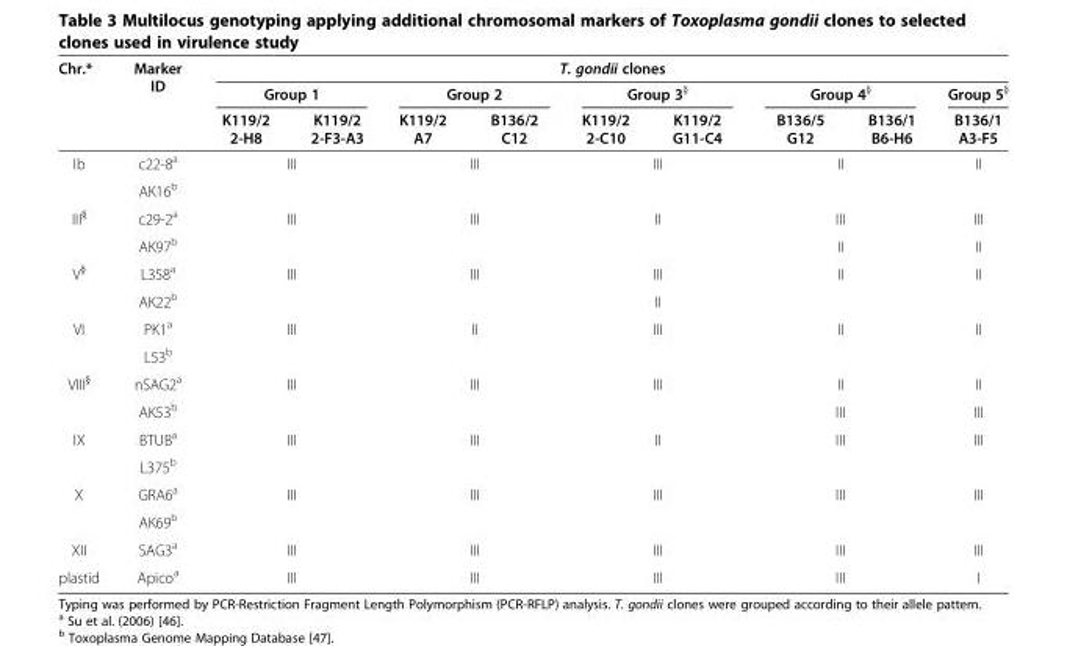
<table><thead><tr><td rowspan="3">Chr.*</td><td rowspan="3">Marker ID</td><td colspan="9">T. gondii clones</td></tr><tr><td colspan="2">Group 1</td><td colspan="2">Group 2</td><td colspan="2">Group 3<sup>§</sup></td><td colspan="2">Group 4<sup>§</sup></td><td rowspan="2">Group 5<sup>§</sup> B136/1 A3-F5</td></tr><tr><td>K119/2 2-H8</td><td>K119/2 2-F3-A3</td><td>K119/2 A7</td><td>B136/2 C12</td><td>K119/2 2-C10</td><td>K119/2 G11-C4</td><td>B136/5 G12</td><td>B136/1 B6-H6</td></tr></thead><tbody><tr><td rowspan="2">Ib</td><td>c22-8<sup>a</sup></td><td rowspan="2" colspan="2">III</td><td rowspan="2" colspan="2">III</td><td rowspan="2" colspan="2">III</td><td rowspan="2" colspan="2">II</td><td rowspan="2">II</td></tr><tr><td>AK16<sup>b</sup></td></tr><tr><td rowspan="2">III<sup>§</sup></td><td>c29-2<sup>a</sup></td><td rowspan="2" colspan="2">III</td><td rowspan="2" colspan="2">III</td><td rowspan="2" colspan="2">II</td><td colspan="2">III</td><td>III</td></tr><tr><td>AK97<sup>b</sup></td><td colspan="2">II</td><td>II</td></tr><tr><td rowspan="2">V<sup>§</sup></td><td>L358<sup>a</sup></td><td rowspan="2" colspan="2">III</td><td rowspan="2" colspan="2">III</td><td colspan="2">III</td><td rowspan="2" colspan="2">II</td><td rowspan="2">II</td></tr><tr><td>AK22<sup>b</sup></td><td colspan="2">II</td></tr><tr><td rowspan="2">VI</td><td>PK1<sup>a</sup></td><td rowspan="2" colspan="2">III</td><td rowspan="2" colspan="2">II</td><td rowspan="2" colspan="2">III</td><td rowspan="2" colspan="2">II</td><td rowspan="2">II</td></tr><tr><td>L53<sup>b</sup></td></tr><tr><td rowspan="2">VIII<sup>§</sup></td><td>nSAG2<sup>a</sup></td><td rowspan="2" colspan="2">III</td><td rowspan="2" colspan="2">III</td><td rowspan="2" colspan="2">III</td><td colspan="2">II</td><td>II</td></tr><tr><td>AK53<sup>b</sup></td><td colspan="2">III</td><td>III</td></tr><tr><td rowspan="2">IX</td><td>BTUB<sup>a</sup></td><td rowspan="2" colspan="2">III</td><td rowspan="2" colspan="2">III</td><td rowspan="2" colspan="2">II</td><td rowspan="2" colspan="2">III</td><td rowspan="2">III</td></tr><tr><td>L375<sup>b</sup></td></tr><tr><td rowspan="2">X</td><td>GRA6<sup>a</sup></td><td rowspan="2" colspan="2">III</td><td rowspan="2" colspan="2">III</td><td rowspan="2" colspan="2">III</td><td rowspan="2" colspan="2">III</td><td rowspan="2">III</td></tr><tr><td>AK69<sup>b</sup></td></tr><tr><td>XII</td><td>SAG3<sup>a</sup></td><td colspan="2">III</td><td colspan="2">III</td><td colspan="2">III</td><td colspan="2">III</td><td>III</td></tr><tr><td>plastid</td><td>Apico<sup>a</sup></td><td colspan="2">III</td><td colspan="2">III</td><td colspan="2">III</td><td colspan="2">III</td><td>I</td></tr></tbody></table>